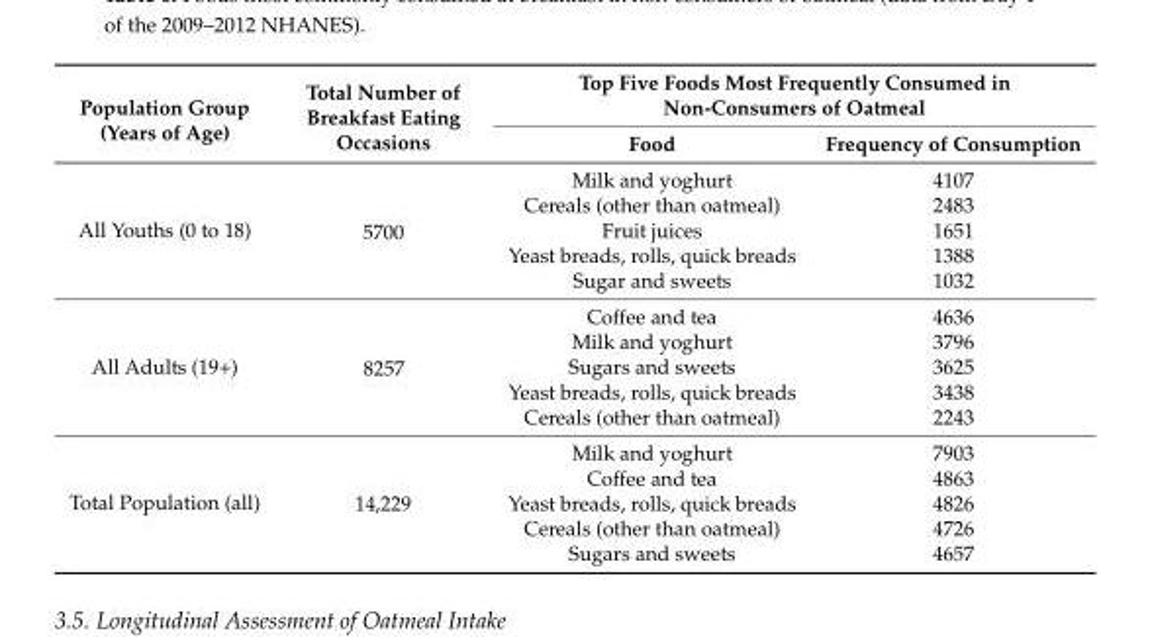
<table><thead><tr><td rowspan="2">Population Group (Years of Age)</td><td rowspan="2">Total Number of Breakfast Eating Occasions</td><td colspan="2">Top Five Foods Most Frequently Consumed in Non-Consumers of Oatmeal</td></tr><tr><td>Food</td><td>Frequency of Consumption</td></tr></thead><tbody><tr><td rowspan="5">All Youths (0 to 18)</td><td rowspan="5">5700</td><td>Milk and yoghurt</td><td>4107</td></tr><tr><td>Cereals (other than oatmeal)</td><td>2483</td></tr><tr><td>Fruit juices</td><td>1651</td></tr><tr><td>Yeast breads, rolls, quick breads</td><td>1388</td></tr><tr><td>Sugar and sweets</td><td>1032</td></tr><tr><td rowspan="5">All Adults (19+)</td><td rowspan="5">8257</td><td>Coffee and tea</td><td>4636</td></tr><tr><td>Milk and yoghurt</td><td>3796</td></tr><tr><td>Sugars and sweets</td><td>3625</td></tr><tr><td>Yeast breads, rolls, quick breads</td><td>3438</td></tr><tr><td>Cereals (other than oatmeal)</td><td>2243</td></tr><tr><td rowspan="5">Total Population (all)</td><td rowspan="5">14,229</td><td>Milk and yoghurt</td><td>7903</td></tr><tr><td>Coffee and tea</td><td>4863</td></tr><tr><td>Yeast breads, rolls, quick breads</td><td>4826</td></tr><tr><td>Cereals (other than oatmeal)</td><td>4726</td></tr><tr><td>Sugars and sweets</td><td>4657</td></tr></tbody></table>